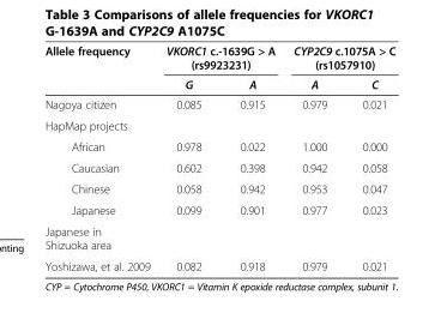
<table><thead><tr><td rowspan="2">Allele frequency</td><td colspan="2">VKORC1 c.-1639G &gt; A (rs9923231)</td><td colspan="2">CYP2C9 c.1075A &gt; C (rs1057910)</td></tr><tr><td>G</td><td>A</td><td>A</td><td>C</td></tr></thead><tbody><tr><td>Nagoya citizen</td><td>0.085</td><td>0.915</td><td>0.979</td><td>0.021</td></tr><tr><td colspan="5">HapMap projects</td></tr><tr><td>African</td><td>0.978</td><td>0.022</td><td>1.000</td><td>0.000</td></tr><tr><td>Caucasian</td><td>0.602</td><td>0.398</td><td>0.942</td><td>0.058</td></tr><tr><td>Chinese</td><td>0.058</td><td>0.942</td><td>0.953</td><td>0.047</td></tr><tr><td>Japanese</td><td>0.099</td><td>0.901</td><td>0.977</td><td>0.023</td></tr><tr><td colspan="5">Japanese in Shizuoka area</td></tr><tr><td>Yoshizawa, et al. 2009</td><td>0.082</td><td>0.918</td><td>0.979</td><td>0.021</td></tr></tbody></table>